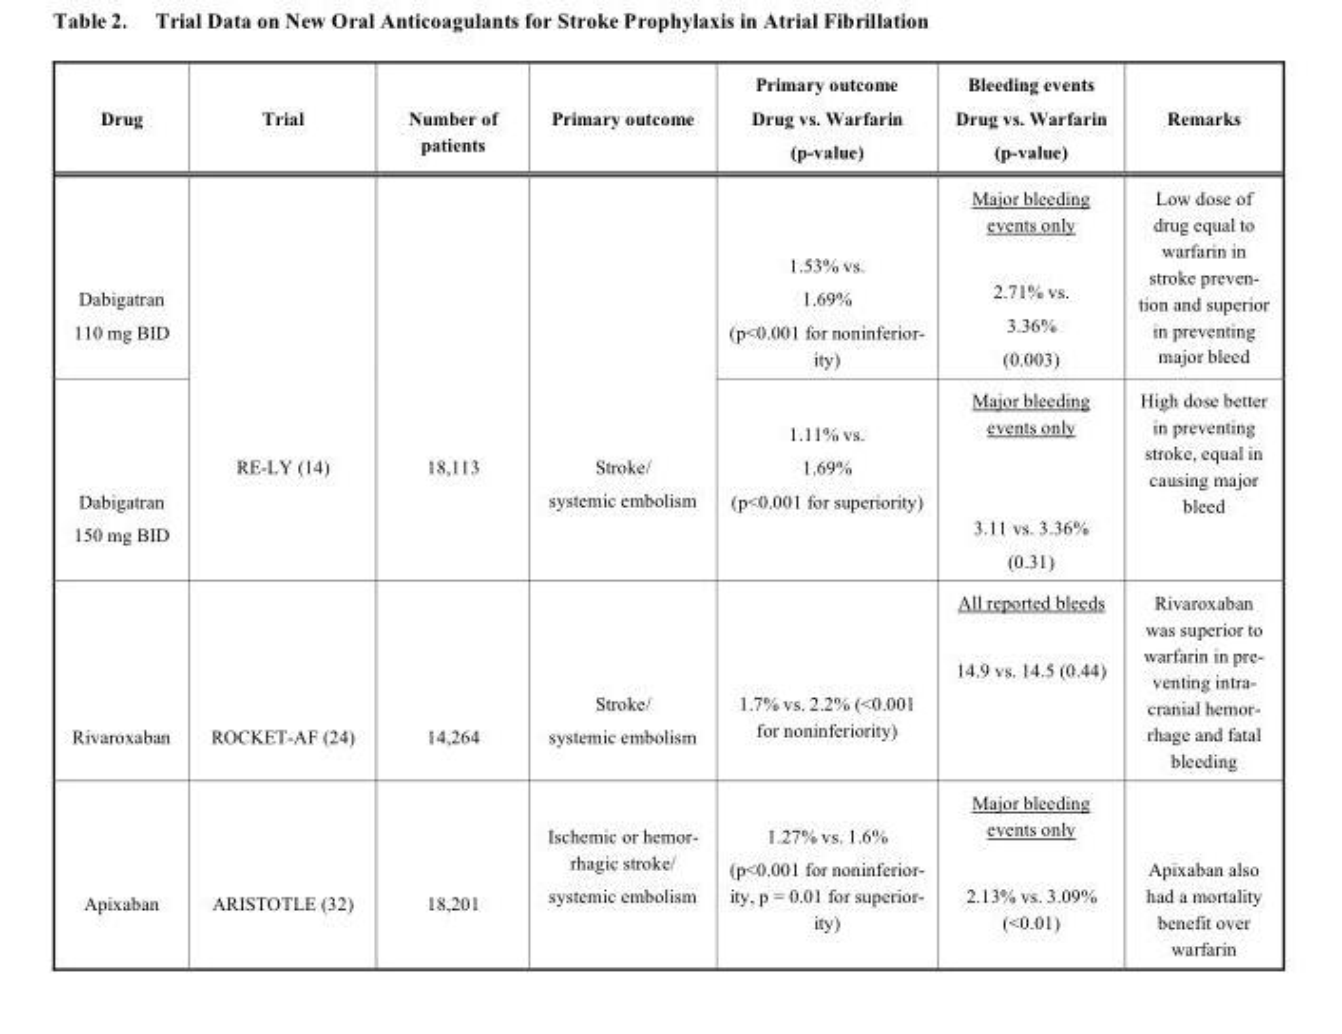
<table><thead><tr><td>Drug</td><td>Trial</td><td>Number of patients</td><td>Primary outcome</td><td>Primary outcome Drug vs. Warfarin (p-value)</td><td>Bleeding events Drug vs. Warfarin (p-value)</td><td>Remarks</td></tr></thead><tbody><tr><td>Dabigatran 110 mg BID</td><td rowspan="2">RE-LY (14)</td><td rowspan="2">18,113</td><td rowspan="2">Stroke/ systemic embolism</td><td>1.53% vs. 1.69% (p&lt;0.001 for noninferior- ity)</td><td>Major bleeding events only 2.71% vs. 3.36% (0.003)</td><td>Low dose of drug equal to warfarin in stroke preven- tion and superior in preventing major bleed</td></tr><tr><td>Dabigatran 150 mg BID</td><td>1.11% vs. 1.69% (p&lt;0.001 for superiority)</td><td>Major bleeding events only 3.11 vs. 3.36% (0.31)</td><td>High dose better in preventing stroke, equal in causing major bleed</td></tr><tr><td>Rivaroxaban</td><td>ROCKET-AF (24)</td><td>14,264</td><td>Stroke/ systemic embolism</td><td>1.7% vs. 2.2% (&lt;0.001 for noninferiority)</td><td>All reported bleeds 14.9 vs. 14.5 (0.44)</td><td>Rivaroxaban was superior to warfarin in pre- venting intra- cranial hemor- rhage and fatal bleeding</td></tr><tr><td>Apixaban</td><td>ARISTOTLE (32)</td><td>18,201</td><td>Ischemic or hemor- rhagic stroke/ systemic embolism</td><td>1.27% vs. 1.6% (p&lt;0.001 for noninferior- ity, p = 0.01 for superior- ity)</td><td>Major bleeding events only 2.13% vs. 3.09% (&lt;0.01)</td><td>Apixaban also had a mortality benefit over warfarin</td></tr></tbody></table>